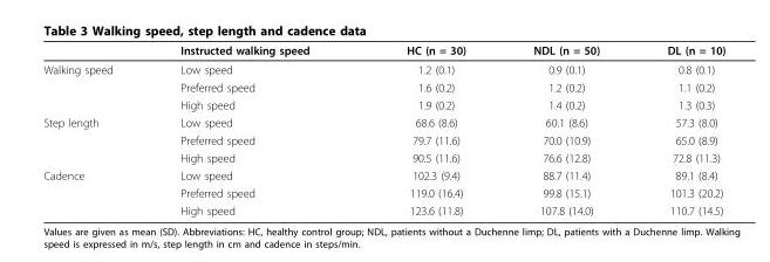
<table><thead><tr><td></td><td>Instructed walking speed</td><td>HC (n = 30)</td><td>NDL (n = 50)</td><td>DL (n = 10)</td></tr></thead><tbody><tr><td rowspan="3">Walking speed</td><td>Low speed</td><td>1.2 (0.1)</td><td>0.9 (0.1)</td><td>0.8 (0.1)</td></tr><tr><td>Preferred speed</td><td>1.6 (0.2)</td><td>1.2 (0.2)</td><td>1.1 (0.2)</td></tr><tr><td>High speed</td><td>1.9 (0.2)</td><td>1.4 (0.2)</td><td>1.3 (0.3)</td></tr><tr><td rowspan="3">Step length</td><td>Low speed</td><td>68.6 (8.6)</td><td>60.1 (8.6)</td><td>57.3 (8.0)</td></tr><tr><td>Preferred speed</td><td>79.7 (11.6)</td><td>70.0 (10.9)</td><td>65.0 (8.9)</td></tr><tr><td>High speed</td><td>90.5 (11.6)</td><td>76.6 (12.8)</td><td>72.8 (11.3)</td></tr><tr><td rowspan="3">Cadence</td><td>Low speed</td><td>102.3 (9.4)</td><td>88.7 (11.4)</td><td>89.1 (8.4)</td></tr><tr><td>Preferred speed</td><td>119.0 (16.4)</td><td>99.8 (15.1)</td><td>101.3 (20.2)</td></tr><tr><td>High speed</td><td>123.6 (11.8)</td><td>107.8 (14.0)</td><td>110.7 (14.5)</td></tr></tbody></table>